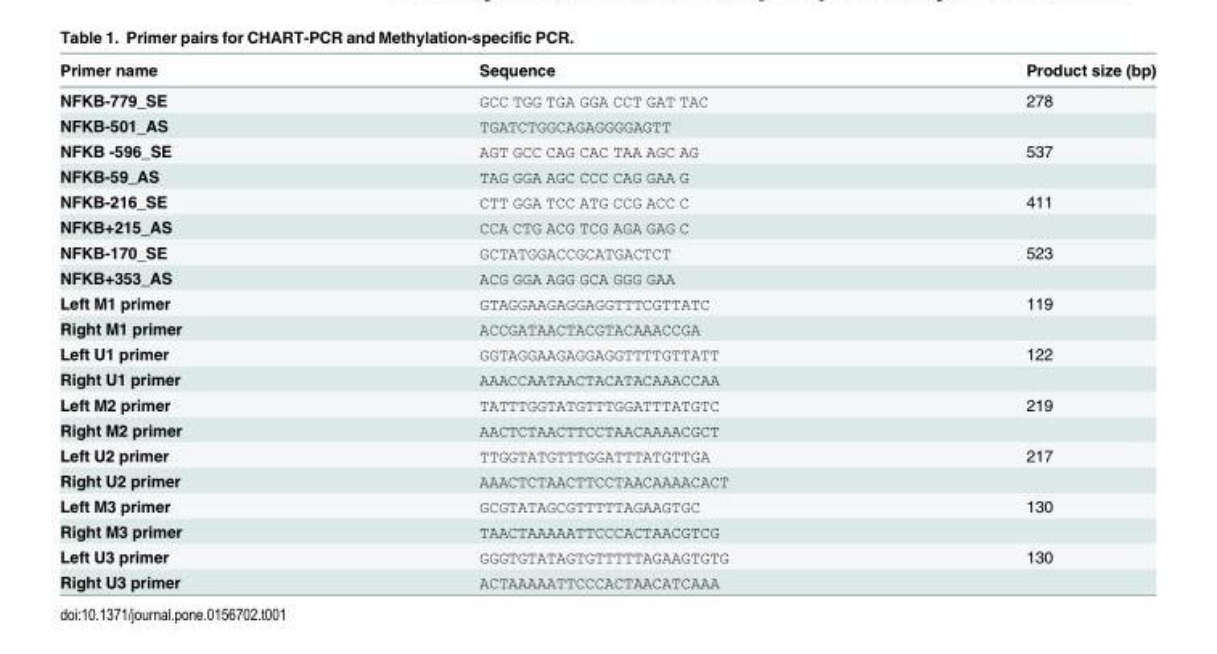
<table><thead><tr><td>Primer name</td><td>Sequence</td><td>Product size (bp)</td></tr></thead><tbody><tr><td>NFKB-779_SE</td><td>GCC TGG TGA GGA CCT GAT TAC</td><td>278</td></tr><tr><td>NFKB-501_AS</td><td>TGATCTGGCAGAGGGGAGTT</td><td></td></tr><tr><td>NFKB -596_SE</td><td>AGT GCC CAG CAC TAA AGC AG</td><td>537</td></tr><tr><td>NFKB-59_AS</td><td>TAG GGA AGC CCC CAG GAA G</td><td></td></tr><tr><td>NFKB-216_SE</td><td>CTT GGA TCC ATG CCG ACC C</td><td>411</td></tr><tr><td>NFKB+215_AS</td><td>CCA CTG ACG TCG AGA GAG C</td><td></td></tr><tr><td>NFKB-170_SE</td><td>GCTATGGACCGCATGACTCT</td><td>523</td></tr><tr><td>NFKB+353_AS</td><td>ACG GGA AGG GCA GGG GAA</td><td></td></tr><tr><td>Left M1 primer</td><td>GTAGGAAGAGGAGGTTTCGTTATC</td><td>119</td></tr><tr><td>Right M1 primer</td><td>ACCGATAACTACGTACAAACCGA</td><td></td></tr><tr><td>Left U1 primer</td><td>GGTAGGAAGAGGAGGTTTTGTTATT</td><td>122</td></tr><tr><td>Right U1 primer</td><td>AAACCAATAACTACATACAAACCAA</td><td></td></tr><tr><td>Left M2 primer</td><td>TATTTGGTATGTTTGGATTTATGTC</td><td>219</td></tr><tr><td>Right M2 primer</td><td>AACTCTAACTTCCTAACAAAACGCT</td><td></td></tr><tr><td>Left U2 primer</td><td>TTGGTATGTTTGGATTTATGTTGA</td><td>217</td></tr><tr><td>Right U2 primer</td><td>AAACTCTAACTTCCTAACAAAACACT</td><td></td></tr><tr><td>Left M3 primer</td><td>GCGTATAGCGTTTTTAGAAGTGC</td><td>130</td></tr><tr><td>Right M3 primer</td><td>TAACTAAAAATTCCCACTAACGTCG</td><td></td></tr><tr><td>Left U3 primer</td><td>GGGTGTATAGTGTTTTTAGAAGTGTG</td><td>130</td></tr><tr><td>Right U3 primer</td><td>ACTAAAAATTCCCACTAACATCAAA</td><td></td></tr></tbody></table>